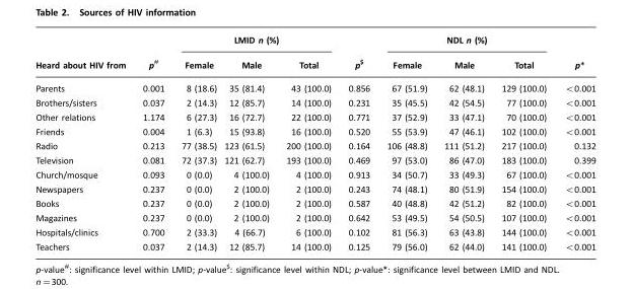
<table><thead><tr><td rowspan="2">Heard about HIV from</td><td rowspan="2">p#</td><td colspan="3">LMID n (%)</td><td rowspan="2">p$</td><td colspan="3">NDL n (%)</td><td rowspan="2">p*</td></tr><tr><td>Female</td><td>Male</td><td>Total</td><td>Female</td><td>Male</td><td>Total</td></tr></thead><tbody><tr><td>Parents</td><td>0.001</td><td>8 (18.6)</td><td>35 (81.4)</td><td>43 (100.0)</td><td>0.856</td><td>67 (51.9)</td><td>62 (48.1)</td><td>129 (100.0)</td><td>&lt;0.001</td></tr><tr><td>Brothers/sisters</td><td>0.037</td><td>2 (14.3)</td><td>12 (85.7)</td><td>14 (100.0)</td><td>0.231</td><td>35 (45.5)</td><td>42 (54.5)</td><td>77 (100.0)</td><td>&lt;0.001</td></tr><tr><td>Other relations</td><td>1.174</td><td>6 (27.3)</td><td>16 (72.7)</td><td>22 (100.0)</td><td>0.771</td><td>37 (52.9)</td><td>33 (47.1)</td><td>70 (100.0)</td><td>&lt;0.001</td></tr><tr><td>Friends</td><td>0.004</td><td>1 (6.3)</td><td>15 (93.8)</td><td>16 (100.0)</td><td>0.520</td><td>55 (53.9)</td><td>47 (46.1)</td><td>102 (100.0)</td><td>&lt;0.001</td></tr><tr><td>Radio</td><td>0.213</td><td>77 (38.5)</td><td>123 (61.5)</td><td>200 (100.0)</td><td>0.164</td><td>106 (48.8)</td><td>111 (51.2)</td><td>217 (100.0)</td><td>0.132</td></tr><tr><td>Television</td><td>0.081</td><td>72 (37.3)</td><td>121 (62.7)</td><td>193 (100.0)</td><td>0.469</td><td>97 (53.0)</td><td>86 (47.0)</td><td>183 (100.0)</td><td>0.399</td></tr><tr><td>Church/mosque</td><td>0.093</td><td>0 (0.0)</td><td>4 (100.0)</td><td>4 (100.0)</td><td>0.913</td><td>34 (50.7)</td><td>33 (49.3)</td><td>67 (100.0)</td><td>&lt;0.001</td></tr><tr><td>Newspapers</td><td>0.237</td><td>0 (0.0)</td><td>2 (100.0)</td><td>2 (100.0)</td><td>0.243</td><td>74 (48.1)</td><td>80 (51.9)</td><td>154 (100.0)</td><td>&lt;0.001</td></tr><tr><td>Books</td><td>0.237</td><td>0 (0.0)</td><td>2 (100.0)</td><td>2 (100.0)</td><td>0.587</td><td>40 (48.8)</td><td>42 (51.2)</td><td>82 (100.0)</td><td>&lt;0.001</td></tr><tr><td>Magazines</td><td>0.237</td><td>0 (0.0)</td><td>2 (100.0)</td><td>2 (100.0)</td><td>0.642</td><td>53 (49.5)</td><td>54 (50.5)</td><td>107 (100.0)</td><td>&lt;0.001</td></tr><tr><td>Hospitals/clinics</td><td>0.700</td><td>2 (33.3)</td><td>4 (66.7)</td><td>6 (100.0)</td><td>0.102</td><td>81 (56.3)</td><td>63 (43.8)</td><td>144 (100.0)</td><td>&lt;0.001</td></tr><tr><td>Teachers</td><td>0.037</td><td>2 (14.3)</td><td>12 (85.7)</td><td>14 (100.0)</td><td>0.125</td><td>79 (56.0)</td><td>62 (44.0)</td><td>141 (100.0)</td><td>&lt;0.001</td></tr></tbody></table>